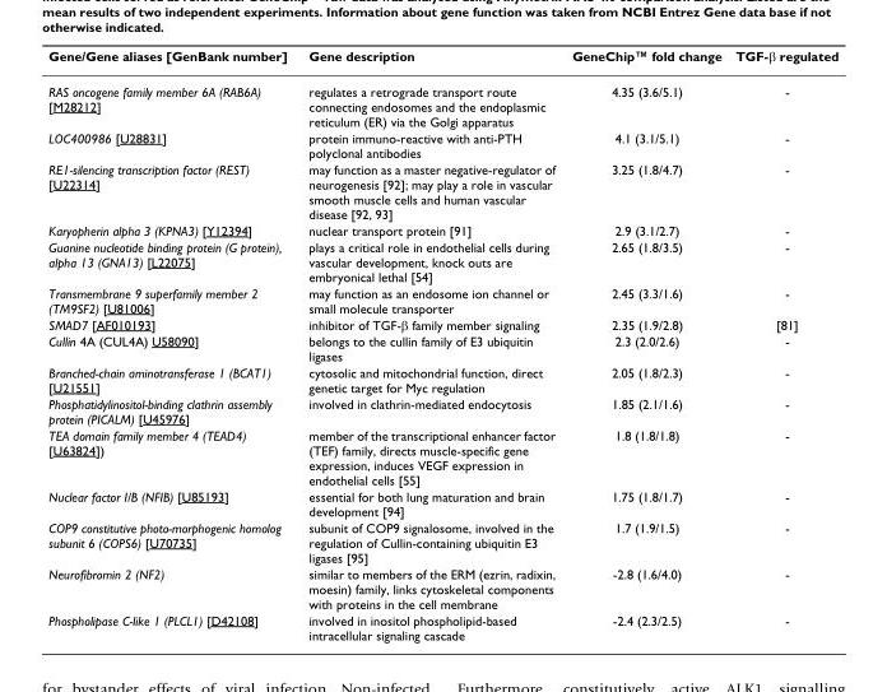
<table><thead><tr><td>Gene/Gene aliases [GenBank number]</td><td>Gene description</td><td>GeneChip™ fold change</td><td>TGF-β regulated</td></tr></thead><tbody><tr><td>RAS oncogene family member 6A (RAB6A) [M28212]</td><td>regulates a retrograde transport route connecting endosomes and the endoplasmic reticulum (ER) via the Golgi apparatus</td><td>4.35 (3.6/5.1)</td><td>-</td></tr><tr><td>LOC400986 [U28831]</td><td>protein immuno-reactive with anti-PTH polyclonal antibodies</td><td>4.1 (3.1/5.1)</td><td>-</td></tr><tr><td>RE1-silencing transcription factor (REST) [U22314]</td><td>may function as a master negative-regulator of neurogenesis [92]; may play a role in vascular smooth muscle cells and human vascular disease [92, 93]</td><td>3.25 (1.8/4.7)</td><td>-</td></tr><tr><td>Karyopherin alpha 3 (KPNA3) [Y12394]</td><td>nuclear transport protein [91]</td><td>2.9 (3.1/2.7)</td><td>-</td></tr><tr><td>Guanine nucleotide binding protein (G protein), alpha 13 (GNA13) [L22075]</td><td>plays a critical role in endothelial cells during vascular development, knock outs are embryonical lethal [54]</td><td>2.65 (1.8/3.5)</td><td>-</td></tr><tr><td>Transmembrane 9 superfamily member 2 (TM9SF2) [U81006]</td><td>may function as an endosome ion channel or small molecule transporter</td><td>2.45 (3.3/1.6)</td><td>-</td></tr><tr><td>SMAD7 [AF010193]</td><td>inhibitor of TGF-β family member signaling</td><td>2.35 (1.9/2.8)</td><td>[81]</td></tr><tr><td>Cullin 4A (CUL4A) U58090]</td><td>belongs to the cullin family of E3 ubiquitin ligases</td><td>2.3 (2.0/2.6)</td><td>-</td></tr><tr><td>Branched-chain aminotransferase 1 (BCAT1) [U21551]</td><td>cytosolic and mitochondrial function, direct genetic target for Myc regulation</td><td>2.05 (1.8/2.3)</td><td>-</td></tr><tr><td>Phosphatidylinositol-binding clathrin assembly protein (PICALM) [U45976]</td><td>involved in clathrin-mediated endocytosis</td><td>1.85 (2.1/1.6)</td><td>-</td></tr><tr><td>TEA domain family member 4 (TEAD4) [U63824])</td><td>member of the transcriptional enhancer factor (TEF) family, directs muscle-specific gene expression, induces VEGF expression in endothelial cells [55]</td><td>1.8 (1.8/1.8)</td><td>-</td></tr><tr><td>Nuclear factor I/B (NFIB) [U85193]</td><td>essential for both lung maturation and brain development [94]</td><td>1.75 (1.8/1.7)</td><td>-</td></tr><tr><td>COP9 constitutive photo-morphogenic homolog subunit 6 (COPS6) [U70735]</td><td>subunit of COP9 signalosome, involved in the regulation of Cullin-containing ubiquitin E3 ligases [95]</td><td>1.7 (1.9/1.5)</td><td>-</td></tr><tr><td>Neurofibromin 2 (NF2)</td><td>similar to members of the ERM (ezrin, radixin, moesin) family, links cytoskeletal components with proteins in the cell membrane</td><td>-2.8 (1.6/4.0)</td><td>-</td></tr><tr><td>Phospholipase C-like 1 (PLCL1) [D42108]</td><td>involved in inositol phospholipid-based intracellular signaling cascade</td><td>-2.4 (2.3/2.5)</td><td>-</td></tr></tbody></table>